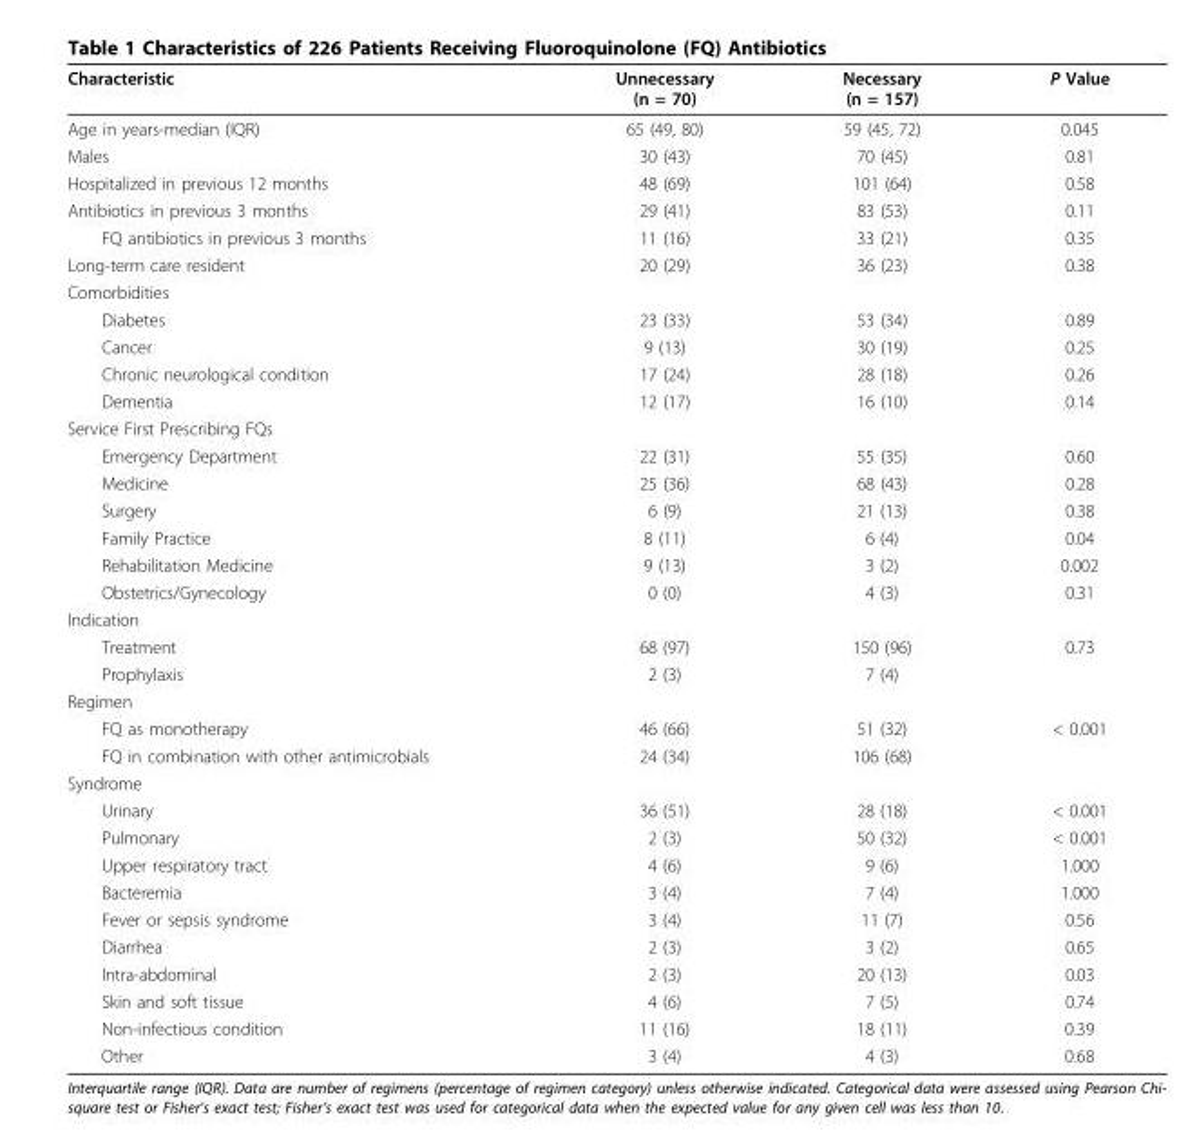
<table><thead><tr><td>Characteristic</td><td>Unnecessary (n = 70)</td><td>Necessary (n = 157)</td><td>P Value</td></tr></thead><tbody><tr><td>Age in years-median (IQR)</td><td>65 (49, 80)</td><td>59 (45, 72)</td><td>0.045</td></tr><tr><td>Males</td><td>30 (43)</td><td>70 (45)</td><td>0.81</td></tr><tr><td>Hospitalized in previous 12 months</td><td>48 (69)</td><td>101 (64)</td><td>0.58</td></tr><tr><td>Antibiotics in previous 3 months</td><td>29 (41)</td><td>83 (53)</td><td>0.11</td></tr><tr><td>FQ antibiotics in previous 3 months</td><td>11 (16)</td><td>33 (21)</td><td>0.35</td></tr><tr><td>Long-term care resident</td><td>20 (29)</td><td>36 (23)</td><td>0.38</td></tr><tr><td colspan="4">Comorbidities</td></tr><tr><td>Diabetes</td><td>23 (33)</td><td>53 (34)</td><td>0.89</td></tr><tr><td>Cancer</td><td>9 (13)</td><td>30 (19)</td><td>0.25</td></tr><tr><td>Chronic neurological condition</td><td>17 (24)</td><td>28 (18)</td><td>0.26</td></tr><tr><td>Dementia</td><td>12 (17)</td><td>16 (10)</td><td>0.14</td></tr><tr><td colspan="4">Service First Prescribing FQs</td></tr><tr><td>Emergency Department</td><td>22 (31)</td><td>55 (35)</td><td>0.60</td></tr><tr><td>Medicine</td><td>25 (36)</td><td>68 (43)</td><td>0.28</td></tr><tr><td>Surgery</td><td>6 (9)</td><td>21 (13)</td><td>0.38</td></tr><tr><td>Family Practice</td><td>8 (11)</td><td>6 (4)</td><td>0.04</td></tr><tr><td>Rehabilitation Medicine</td><td>9 (13)</td><td>3 (2)</td><td>0.002</td></tr><tr><td>Obstetrics/Gynecology</td><td>0 (0)</td><td>4 (3)</td><td>0.31</td></tr><tr><td colspan="4">Indication</td></tr><tr><td>Treatment</td><td>68 (97)</td><td>150 (96)</td><td>0.73</td></tr><tr><td>Prophylaxis</td><td>2 (3)</td><td>7 (4)</td><td></td></tr><tr><td colspan="4">Regimen</td></tr><tr><td>FQ as monotherapy</td><td>46 (66)</td><td>51 (32)</td><td>&lt; 0.001</td></tr><tr><td>FQ in combination with other antimicrobials</td><td>24 (34)</td><td>106 (68)</td><td></td></tr><tr><td colspan="4">Syndrome</td></tr><tr><td>Urinary</td><td>36 (51)</td><td>28 (18)</td><td>&lt; 0.001</td></tr><tr><td>Pulmonary</td><td>2 (3)</td><td>50 (32)</td><td>&lt; 0.001</td></tr><tr><td>Upper respiratory tract</td><td>4 (6)</td><td>9 (6)</td><td>1.000</td></tr><tr><td>Bacteremia</td><td>3 (4)</td><td>7 (4)</td><td>1.000</td></tr><tr><td>Fever or sepsis syndrome</td><td>3 (4)</td><td>11 (7)</td><td>0.56</td></tr><tr><td>Diarrhea</td><td>2 (3)</td><td>3 (2)</td><td>0.65</td></tr><tr><td>Intra-abdominal</td><td>2 (3)</td><td>20 (13)</td><td>0.03</td></tr><tr><td>Skin and soft tissue</td><td>4 (6)</td><td>7 (5)</td><td>0.74</td></tr><tr><td>Non-infectious condition</td><td>11 (16)</td><td>18 (11)</td><td>0.39</td></tr><tr><td>Other</td><td>3 (4)</td><td>4 (3)</td><td>0.68</td></tr></tbody></table>